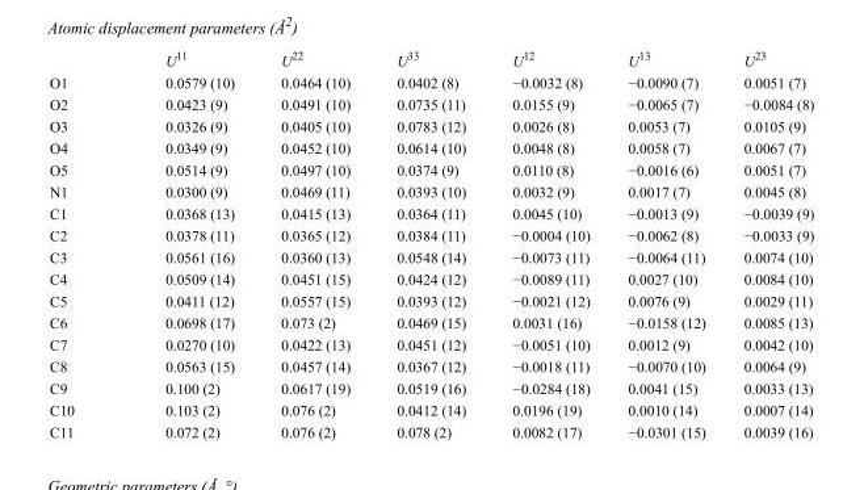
<table><thead><tr><td></td><td>U<sup>11</sup></td><td>U<sup>22</sup></td><td>U<sup>33</sup></td><td>U<sup>12</sup></td><td>U<sup>13</sup></td><td>U<sup>23</sup></td></tr></thead><tbody><tr><td>O1</td><td>0.0579 (10)</td><td>0.0464 (10)</td><td>0.0402 (8)</td><td>−0.0032 (8)</td><td>−0.0090 (7)</td><td>0.0051 (7)</td></tr><tr><td>O2</td><td>0.0423 (9)</td><td>0.0491 (10)</td><td>0.0735 (11)</td><td>0.0155 (9)</td><td>−0.0065 (7)</td><td>−0.0084 (8)</td></tr><tr><td>O3</td><td>0.0326 (9)</td><td>0.0405 (10)</td><td>0.0783 (12)</td><td>0.0026 (8)</td><td>0.0053 (7)</td><td>0.0105 (9)</td></tr><tr><td>O4</td><td>0.0349 (9)</td><td>0.0452 (10)</td><td>0.0614 (10)</td><td>0.0048 (8)</td><td>0.0058 (7)</td><td>0.0067 (7)</td></tr><tr><td>O5</td><td>0.0514 (9)</td><td>0.0497 (10)</td><td>0.0374 (9)</td><td>0.0110 (8)</td><td>−0.0016 (6)</td><td>0.0051 (7)</td></tr><tr><td>N1</td><td>0.0300 (9)</td><td>0.0469 (11)</td><td>0.0393 (10)</td><td>0.0032 (9)</td><td>0.0017 (7)</td><td>0.0045 (8)</td></tr><tr><td>C1</td><td>0.0368 (13)</td><td>0.0415 (13)</td><td>0.0364 (11)</td><td>0.0045 (10)</td><td>−0.0013 (9)</td><td>−0.0039 (9)</td></tr><tr><td>C2</td><td>0.0378 (11)</td><td>0.0365 (12)</td><td>0.0384 (11)</td><td>−0.0004 (10)</td><td>−0.0062 (8)</td><td>−0.0033 (9)</td></tr><tr><td>C3</td><td>0.0561 (16)</td><td>0.0360 (13)</td><td>0.0548 (14)</td><td>−0.0073 (11)</td><td>−0.0064 (11)</td><td>0.0074 (10)</td></tr><tr><td>C4</td><td>0.0509 (14)</td><td>0.0451 (15)</td><td>0.0424 (12)</td><td>−0.0089 (11)</td><td>0.0027 (10)</td><td>0.0084 (10)</td></tr><tr><td>C5</td><td>0.0411 (12)</td><td>0.0557 (15)</td><td>0.0393 (12)</td><td>−0.0021 (12)</td><td>0.0076 (9)</td><td>0.0029 (11)</td></tr><tr><td>C6</td><td>0.0698 (17)</td><td>0.073 (2)</td><td>0.0469 (15)</td><td>0.0031 (16)</td><td>−0.0158 (12)</td><td>0.0085 (13)</td></tr><tr><td>C7</td><td>0.0270 (10)</td><td>0.0422 (13)</td><td>0.0451 (12)</td><td>−0.0051 (10)</td><td>0.0012 (9)</td><td>0.0042 (10)</td></tr><tr><td>C8</td><td>0.0563 (15)</td><td>0.0457 (14)</td><td>0.0367 (12)</td><td>−0.0018 (11)</td><td>−0.0070 (10)</td><td>0.0064 (9)</td></tr><tr><td>C9</td><td>0.100 (2)</td><td>0.0617 (19)</td><td>0.0519 (16)</td><td>−0.0284 (18)</td><td>0.0041 (15)</td><td>0.0033 (13)</td></tr><tr><td>C10</td><td>0.103 (2)</td><td>0.076 (2)</td><td>0.0412 (14)</td><td>0.0196 (19)</td><td>0.0010 (14)</td><td>0.0007 (14)</td></tr><tr><td>C11</td><td>0.072 (2)</td><td>0.076 (2)</td><td>0.078 (2)</td><td>0.0082 (17)</td><td>−0.0301 (15)</td><td>0.0039 (16)</td></tr></tbody></table>